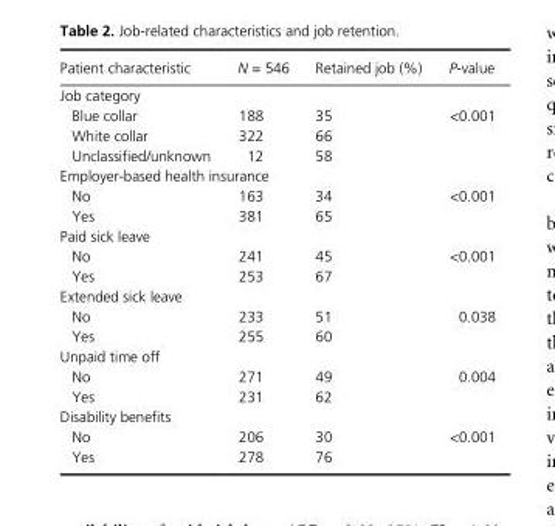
<table><thead><tr><td>Patient characteristic</td><td>N = 546</td><td>Retained job (%)</td><td>P- value</td></tr></thead><tbody><tr><td colspan="4">Job category</td></tr><tr><td>Blue collar</td><td>188</td><td>35</td><td rowspan="3">&lt;0.001</td></tr><tr><td>White collar</td><td>322</td><td>66</td></tr><tr><td>Unclassified/unknown</td><td>12</td><td>58</td></tr><tr><td colspan="4">Employer- based health insurance</td></tr><tr><td>No</td><td>163</td><td>34</td><td rowspan="2">&lt;0.001</td></tr><tr><td>Yes</td><td>381</td><td>65</td></tr><tr><td colspan="4">Paid sick leave</td></tr><tr><td>No</td><td>241</td><td>45</td><td rowspan="2">&lt;0.001</td></tr><tr><td>Yes</td><td>253</td><td>67</td></tr><tr><td colspan="4">Extended sick leave</td></tr><tr><td>No</td><td>233</td><td>51</td><td rowspan="2">0.038</td></tr><tr><td>Yes</td><td>255</td><td>60</td></tr><tr><td colspan="4">Unpaid time off</td></tr><tr><td>No</td><td>271</td><td>49</td><td rowspan="2">0.004</td></tr><tr><td>Yes</td><td>231</td><td>62</td></tr><tr><td colspan="4">Disability benefits</td></tr><tr><td>No</td><td>206</td><td>30</td><td rowspan="2">&lt;0.001</td></tr><tr><td>Yes</td><td>278</td><td>76</td></tr></tbody></table>